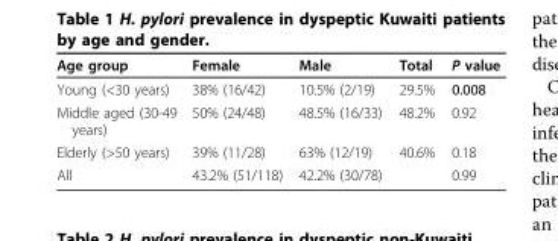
<table><thead><tr><td>Age group</td><td>Female</td><td>Male</td><td>Total</td><td>P value</td></tr></thead><tbody><tr><td>Young (&lt;30 years)</td><td>38% (16/42)</td><td>10.5% (2/19)</td><td>29.5%</td><td>0.008</td></tr><tr><td>Middle aged (30-49 years)</td><td>50% (24/48)</td><td>48.5% (16/33)</td><td>48.2%</td><td>0.92</td></tr><tr><td>Elderly (&gt;50 years)</td><td>39% (11/28)</td><td>63% (12/19)</td><td>40.6%</td><td>0.18</td></tr><tr><td>All</td><td>43.2% (51/118)</td><td>42.2% (30/78)</td><td></td><td>0.99</td></tr></tbody></table>